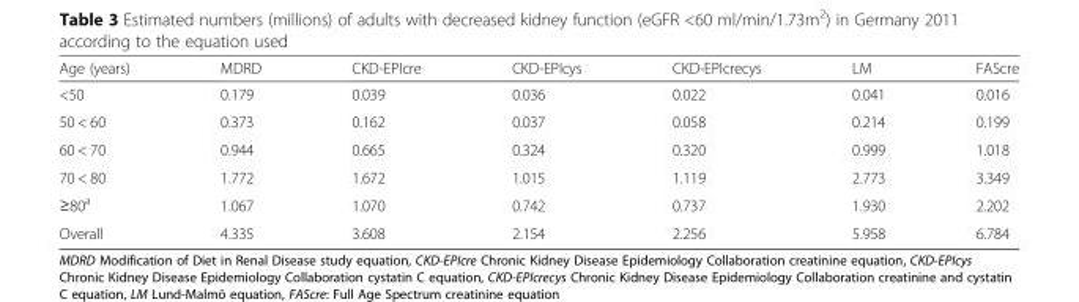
<table><thead><tr><td>Age (years)</td><td>MDRD</td><td>CKD-EPIcre</td><td>CKD-EPIcys</td><td>CKD-EPIcrecys</td><td>LM</td><td>FAScre</td></tr></thead><tbody><tr><td>&lt;50</td><td>0.179</td><td>0.039</td><td>0.036</td><td>0.022</td><td>0.041</td><td>0.016</td></tr><tr><td>50 &lt; 60</td><td>0.373</td><td>0.162</td><td>0.037</td><td>0.058</td><td>0.214</td><td>0.199</td></tr><tr><td>60 &lt; 70</td><td>0.944</td><td>0.665</td><td>0.324</td><td>0.320</td><td>0.999</td><td>1.018</td></tr><tr><td>70 &lt; 80</td><td>1.772</td><td>1.672</td><td>1.015</td><td>1.119</td><td>2.773</td><td>3.349</td></tr><tr><td>≥80<sup>a</sup></td><td>1.067</td><td>1.070</td><td>0.742</td><td>0.737</td><td>1.930</td><td>2.202</td></tr><tr><td>Overall</td><td>4.335</td><td>3.608</td><td>2.154</td><td>2.256</td><td>5.958</td><td>6.784</td></tr></tbody></table>